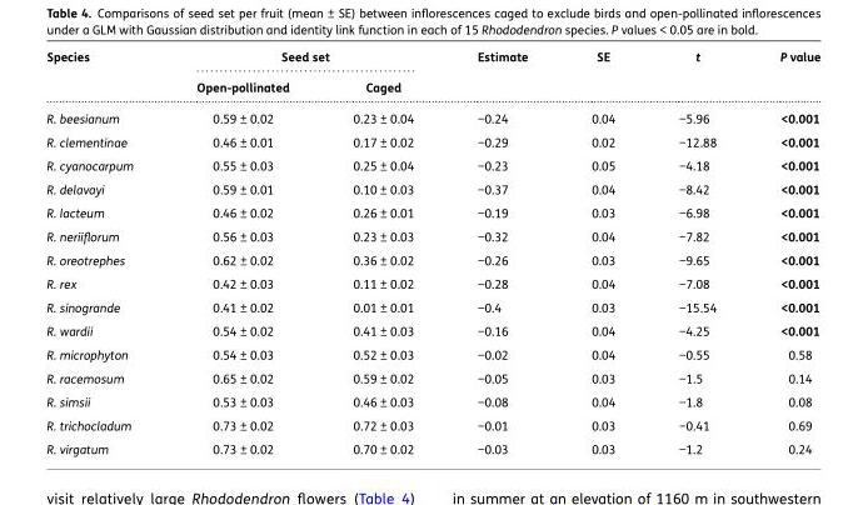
<table><thead><tr><td rowspan="2">Species</td><td colspan="2">Seed set</td><td rowspan="2">Estimate</td><td rowspan="2">SE</td><td rowspan="2">t</td><td rowspan="2">P value</td></tr><tr><td>Open-pollinated</td><td>Caged</td></tr></thead><tbody><tr><td>R. beesianum</td><td>0.59 ± 0.02</td><td>0.23 ± 0.04</td><td>−0.24</td><td>0.04</td><td>−5.96</td><td>&lt;0.001</td></tr><tr><td>R. clementinae</td><td>0.46 ± 0.01</td><td>0.17 ± 0.02</td><td>−0.29</td><td>0.02</td><td>−12.88</td><td>&lt;0.001</td></tr><tr><td>R. cyanocarpum</td><td>0.55 ± 0.03</td><td>0.25 ± 0.04</td><td>−0.23</td><td>0.05</td><td>−4.18</td><td>&lt;0.001</td></tr><tr><td>R. delavayi</td><td>0.59 ± 0.01</td><td>0.10 ± 0.03</td><td>−0.37</td><td>0.04</td><td>−8.42</td><td>&lt;0.001</td></tr><tr><td>R. lacteum</td><td>0.46 ± 0.02</td><td>0.26 ± 0.01</td><td>−0.19</td><td>0.03</td><td>−6.98</td><td>&lt;0.001</td></tr><tr><td>R. neriiflorum</td><td>0.56 ± 0.03</td><td>0.23 ± 0.03</td><td>−0.32</td><td>0.04</td><td>−7.82</td><td>&lt;0.001</td></tr><tr><td>R. oreotrephes</td><td>0.62 ± 0.02</td><td>0.36 ± 0.02</td><td>−0.26</td><td>0.03</td><td>−9.65</td><td>&lt;0.001</td></tr><tr><td>R. rex</td><td>0.42 ± 0.03</td><td>0.11 ± 0.02</td><td>−0.28</td><td>0.04</td><td>−7.08</td><td>&lt;0.001</td></tr><tr><td>R. sinogrande</td><td>0.41 ± 0.02</td><td>0.01 ± 0.01</td><td>−0.4</td><td>0.03</td><td>−15.54</td><td>&lt;0.001</td></tr><tr><td>R. wardii</td><td>0.54 ± 0.02</td><td>0.41 ± 0.03</td><td>−0.16</td><td>0.04</td><td>−4.25</td><td>&lt;0.001</td></tr><tr><td>R. microphyton</td><td>0.54 ± 0.03</td><td>0.52 ± 0.03</td><td>−0.02</td><td>0.04</td><td>−0.55</td><td>0.58</td></tr><tr><td>R. racemosum</td><td>0.65 ± 0.02</td><td>0.59 ± 0.02</td><td>−0.05</td><td>0.03</td><td>−1.5</td><td>0.14</td></tr><tr><td>R. simsii</td><td>0.53 ± 0.03</td><td>0.46 ± 0.03</td><td>−0.08</td><td>0.04</td><td>−1.8</td><td>0.08</td></tr><tr><td>R. trichocladum</td><td>0.73 ± 0.02</td><td>0.72 ± 0.03</td><td>−0.01</td><td>0.03</td><td>−0.41</td><td>0.69</td></tr><tr><td>R. virgatum</td><td>0.73 ± 0.02</td><td>0.70 ± 0.02</td><td>−0.03</td><td>0.03</td><td>−1.2</td><td>0.24</td></tr></tbody></table>